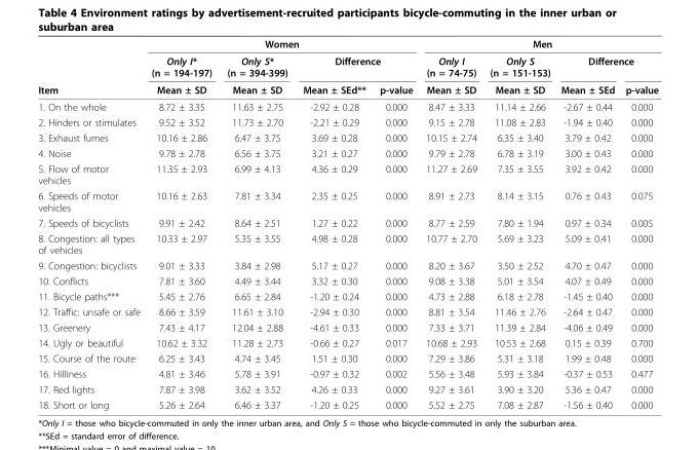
<table><thead><tr><td rowspan="3">Item</td><td colspan="4">Women</td><td colspan="4">Men</td></tr><tr><td rowspan="2">Only I* (n = 194-197) Mean ± SD</td><td rowspan="2">Only S* (n = 394-399) Mean ± SD</td><td colspan="2">Difference</td><td rowspan="2">Only I (n = 74-75) Mean ± SD</td><td rowspan="2">Only S (n = 151-153) Mean ± SD</td><td colspan="2">Difference</td></tr><tr><td>Mean ± SEd**</td><td>p-value</td><td>Mean ± SEd</td><td>p-value</td></tr></thead><tbody><tr><td>1. On the whole</td><td>8.72 ± 3.35</td><td>11.63 ± 2.75</td><td>-2.92 ± 0.28</td><td>0.000</td><td>8.47 ± 3.33</td><td>11.14 ± 2.66</td><td>-2.67 ± 0.44</td><td>0.000</td></tr><tr><td>2. Hinders or stimulates</td><td>9.52 ± 3.52</td><td>11.73 ± 2.70</td><td>-2.21 ± 0.29</td><td>0.000</td><td>9.15 ± 2.78</td><td>11.08 ± 2.83</td><td>-1.94 ± 0.40</td><td>0.000</td></tr><tr><td>3. Exhaust fumes</td><td>10.16 ± 2.86</td><td>6.47 ± 3.75</td><td>3.69 ± 0.28</td><td>0.000</td><td>10.15 ± 2.74</td><td>6.35 ± 3.40</td><td>3.79 ± 0.42</td><td>0.000</td></tr><tr><td>4. Noise</td><td>9.78 ± 2.78</td><td>6.56 ± 3.75</td><td>3.21 ± 0.27</td><td>0.000</td><td>9.79 ± 2.78</td><td>6.78 ± 3.19</td><td>3.00 ± 0.43</td><td>0.000</td></tr><tr><td>5. Flow of motor vehicles</td><td>11.35 ± 2.93</td><td>6.99 ± 4.13</td><td>4.36 ± 0.29</td><td>0.000</td><td>11.27 ± 2.69</td><td>7.35 ± 3.55</td><td>3.92 ± 0.42</td><td>0.000</td></tr><tr><td>6. Speeds of motor vehicles</td><td>10.16 ± 2.63</td><td>7.81 ± 3.34</td><td>2.35 ± 0.25</td><td>0.000</td><td>8.91 ± 2.73</td><td>8.14 ± 3.15</td><td>0.76 ± 0.43</td><td>0.075</td></tr><tr><td>7. Speeds of bicyclists</td><td>9.91 ± 2.42</td><td>8.64 ± 2.51</td><td>1.27 ± 0.22</td><td>0.000</td><td>8.77 ± 2.59</td><td>7.80 ± 1.94</td><td>0.97 ± 0.34</td><td>0.005</td></tr><tr><td>8. Congestion: all types of vehicles</td><td>10.33 ± 2.97</td><td>5.35 ± 3.55</td><td>4.98 ± 0.28</td><td>0.000</td><td>10.77 ± 2.70</td><td>5.69 ± 3.23</td><td>5.09 ± 0.41</td><td>0.000</td></tr><tr><td>9. Congestion: bicyclists</td><td>9.01 ± 3.33</td><td>3.84 ± 2.98</td><td>5.17 ± 0.27</td><td>0.000</td><td>8.20 ± 3.67</td><td>3.50 ± 2.52</td><td>4.70 ± 0.47</td><td>0.000</td></tr><tr><td>10. Conflicts</td><td>7.81 ± 3.60</td><td>4.49 ± 3.44</td><td>3.32 ± 0.30</td><td>0.000</td><td>9.08 ± 3.38</td><td>5.01 ± 3.54</td><td>4.07 ± 0.49</td><td>0.000</td></tr><tr><td>11. Bicycle paths***</td><td>5.45 ± 2.76</td><td>6.65 ± 2.84</td><td>-1.20 ± 0.24</td><td>0.000</td><td>4.73 ± 2.88</td><td>6.18 ± 2.78</td><td>-1.45 ± 0.40</td><td>0.000</td></tr><tr><td>12. Traffic: unsafe or safe</td><td>8.66 ± 3.59</td><td>11.61 ± 3.10</td><td>-2.94 ± 0.30</td><td>0.000</td><td>8.81 ± 3.54</td><td>11.46 ± 2.76</td><td>-2.64 ± 0.47</td><td>0.000</td></tr><tr><td>13. Greenery</td><td>7.43 ± 4.17</td><td>12.04 ± 2.88</td><td>-4.61 ± 0.33</td><td>0.000</td><td>7.33 ± 3.71</td><td>11.39 ± 2.84</td><td>-4.06 ± 0.49</td><td>0.000</td></tr><tr><td>14. Ugly or beautiful</td><td>10.62 ± 3.32</td><td>11.28 ± 2.73</td><td>-0.66 ± 0.27</td><td>0.017</td><td>10.68 ± 2.93</td><td>10.53 ± 2.68</td><td>0.15 ± 0.39</td><td>0.700</td></tr><tr><td>15. Course of the route</td><td>6.25 ± 3.43</td><td>4.74 ± 3.45</td><td>1.51 ± 0.30</td><td>0.000</td><td>7.29 ± 3.86</td><td>5.31 ± 3.18</td><td>1.99 ± 0.48</td><td>0.000</td></tr><tr><td>16. Hilliness</td><td>4.81 ± 3.46</td><td>5.78 ± 3.91</td><td>-0.97 ± 0.32</td><td>0.002</td><td>5.56 ± 3.48</td><td>5.93 ± 3.84</td><td>-0.37 ± 0.53</td><td>0.477</td></tr><tr><td>17. Red lights</td><td>7.87 ± 3.98</td><td>3.62 ± 3.52</td><td>4.26 ± 0.33</td><td>0.000</td><td>9.27 ± 3.61</td><td>3.90 ± 3.20</td><td>5.36 ± 0.47</td><td>0.000</td></tr><tr><td>18. Short or long</td><td>5.26 ± 2.64</td><td>6.46 ± 3.37</td><td>-1.20 ± 0.25</td><td>0.000</td><td>5.52 ± 2.75</td><td>7.08 ± 2.87</td><td>-1.56 ± 0.40</td><td>0.000</td></tr></tbody></table>